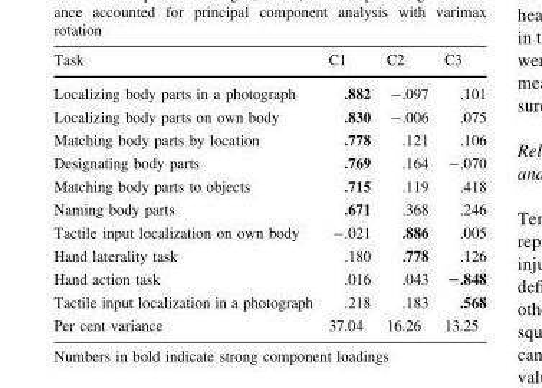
<table><thead><tr><td>Task</td><td>C1</td><td>C2</td><td>C3</td></tr></thead><tbody><tr><td>Localizing body parts in a photograph</td><td>.882</td><td>-.097</td><td>.101</td></tr><tr><td>Localizing body parts on own body</td><td>.830</td><td>-.006</td><td>.075</td></tr><tr><td>Matching body parts by location</td><td>.778</td><td>.121</td><td>.106</td></tr><tr><td>Designating body parts</td><td>.769</td><td>.164</td><td>-.070</td></tr><tr><td>Matching body parts to objects</td><td>.715</td><td>.119</td><td>.418</td></tr><tr><td>Naming body parts</td><td>.671</td><td>.368</td><td>.246</td></tr><tr><td>Tactile input localization on own body</td><td>-.021</td><td>.886</td><td>.005</td></tr><tr><td>Hand laterality task</td><td>.180</td><td>.778</td><td>.126</td></tr><tr><td>Hand action task</td><td>.016</td><td>.043</td><td>−.848</td></tr><tr><td>Tactile input localization in a photograph</td><td>.218</td><td>.183</td><td>.568</td></tr><tr><td>Per cent variance</td><td>37.04</td><td>16.26</td><td>13.25</td></tr></tbody></table>